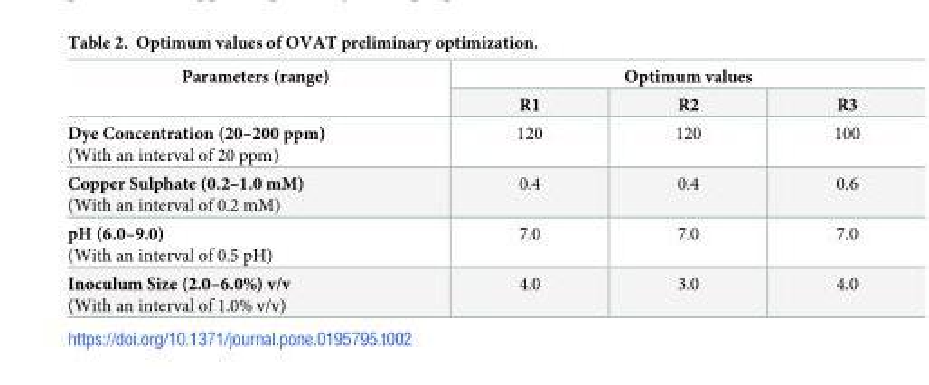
<table><thead><tr><td rowspan="2">Parameters (range)</td><td colspan="3">Optimum values</td></tr><tr><td>R1</td><td>R2</td><td>R3</td></tr></thead><tbody><tr><td>Dye Concentration (20–200 ppm) (With an interval of 20 ppm)</td><td>120</td><td>120</td><td>100</td></tr><tr><td>Copper Sulphate (0.2–1.0 mM) (With an interval of 0.2 mM)</td><td>0.4</td><td>0.4</td><td>0.6</td></tr><tr><td>pH (6.0–9.0) (With an interval of 0.5 pH)</td><td>7.0</td><td>7.0</td><td>7.0</td></tr><tr><td>Inoculum Size (2.0–6.0%) v/v (With an interval of 1.0% v/v)</td><td>4.0</td><td>3.0</td><td>4.0</td></tr></tbody></table>